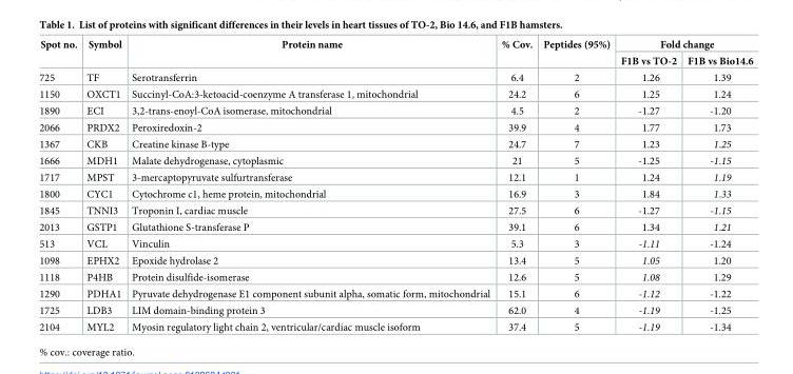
<table><thead><tr><td rowspan="2">Spot no.</td><td rowspan="2">Symbol</td><td rowspan="2">Protein name</td><td rowspan="2">% Cov.</td><td rowspan="2">Peptides (95%)</td><td colspan="2">Fold change</td></tr><tr><td>F1B vs TO-2</td><td>F1B vs Bio14.6</td></tr></thead><tbody><tr><td>725</td><td>TF</td><td>Serotransferrin</td><td>6.4</td><td>2</td><td>1.26</td><td>1.39</td></tr><tr><td>1150</td><td>OXCT1</td><td>Succinyl-CoA:3-ketoacid-coenzyme A transferase 1, mitochondrial</td><td>24.2</td><td>6</td><td>1.25</td><td>1.24</td></tr><tr><td>1890</td><td>ECI</td><td>3,2-trans-enoyl-CoA isomerase, mitochondrial</td><td>4.5</td><td>2</td><td>-1.27</td><td>-1.20</td></tr><tr><td>2066</td><td>PRDX2</td><td>Peroxiredoxin-2</td><td>39.9</td><td>4</td><td>1.77</td><td>1.73</td></tr><tr><td>1367</td><td>CKB</td><td>Creatine kinase B-type</td><td>24.7</td><td>7</td><td>1.23</td><td>1.25</td></tr><tr><td>1666</td><td>MDH1</td><td>Malate dehydrogenase, cytoplasmic</td><td>21</td><td>5</td><td>-1.25</td><td>-1.15</td></tr><tr><td>1717</td><td>MPST</td><td>3-mercaptopyruvate sulfurtransferase</td><td>12.1</td><td>1</td><td>1.24</td><td>1.19</td></tr><tr><td>1800</td><td>CYC1</td><td>Cytochrome c1, heme protein, mitochondrial</td><td>16.9</td><td>3</td><td>1.84</td><td>1.33</td></tr><tr><td>1845</td><td>TNNI3</td><td>Troponin I, cardiac muscle</td><td>27.5</td><td>6</td><td>-1.27</td><td>-1.15</td></tr><tr><td>2013</td><td>GSTP1</td><td>Glutathione S-transferase P</td><td>39.1</td><td>6</td><td>1.34</td><td>1.21</td></tr><tr><td>513</td><td>VCL</td><td>Vinculin</td><td>5.3</td><td>3</td><td>-1.11</td><td>-1.24</td></tr><tr><td>1098</td><td>EPHX2</td><td>Epoxide hydrolase 2</td><td>13.4</td><td>5</td><td>1.05</td><td>1.20</td></tr><tr><td>1118</td><td>P4HB</td><td>Protein disulfide-isomerase</td><td>12.6</td><td>5</td><td>1.08</td><td>1.29</td></tr><tr><td>1290</td><td>PDHA1</td><td>Pyruvate dehydrogenase E1 component subunit alpha, somatic form, mitochondrial</td><td>15.1</td><td>6</td><td>-1.12</td><td>-1.22</td></tr><tr><td>1725</td><td>LDB3</td><td>LIM domain-binding protein 3</td><td>62.0</td><td>4</td><td>-1.19</td><td>-1.25</td></tr><tr><td>2104</td><td>MYL2</td><td>Myosin regulatory light chain 2, ventricular/cardiac muscle isoform</td><td>37.4</td><td>5</td><td>-1.19</td><td>-1.34</td></tr></tbody></table>